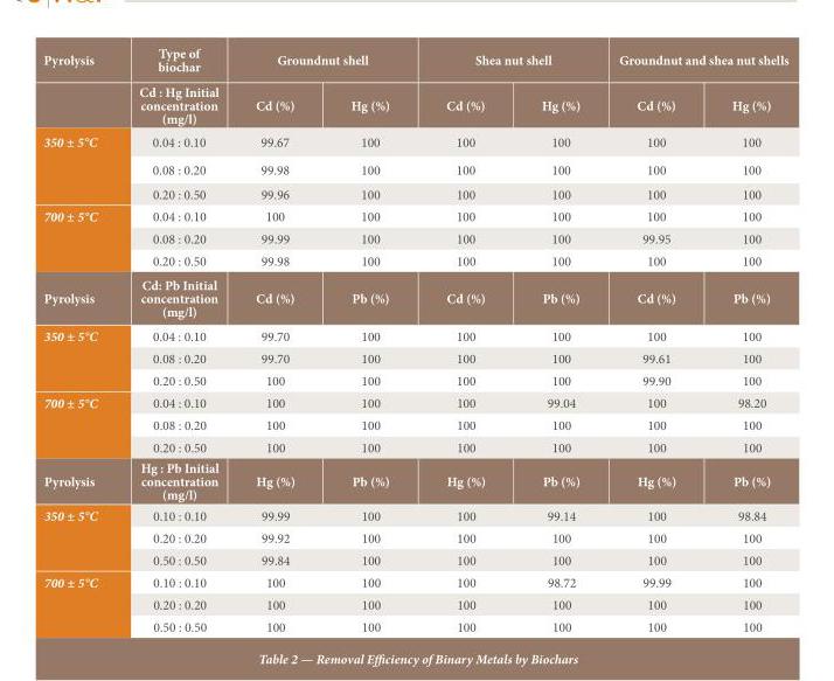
<table><tbody><tr><td rowspan="2">Pyrolysis</td><td>Type of biochar</td><td colspan="2">Groundnut shell</td><td colspan="2">Shea nut shell</td><td colspan="2">Groundnut and shea nut shells</td></tr><tr><td>Cd : Hg Initial concentration (mg/l)</td><td>Cd (%)</td><td>Hg (%)</td><td>Cd (%)</td><td>Hg (%)</td><td>Cd (%)</td><td>Hg (%)</td></tr><tr><td rowspan="3">350 ± 5°C</td><td>0.04 : 0.10</td><td>99.67</td><td>100</td><td>100</td><td>100</td><td>100</td><td>100</td></tr><tr><td>0.08 : 0.20</td><td>99.98</td><td>100</td><td>100</td><td>100</td><td>100</td><td>100</td></tr><tr><td>0.20 : 0.50</td><td>99.96</td><td>100</td><td>100</td><td>100</td><td>100</td><td>100</td></tr><tr><td rowspan="3">700 ± 5°C</td><td>0.04 : 0.10</td><td>100</td><td>100</td><td>100</td><td>100</td><td>100</td><td>100</td></tr><tr><td>0.08 : 0.20</td><td>99.99</td><td>100</td><td>100</td><td>100</td><td>99.95</td><td>100</td></tr><tr><td>0.20 : 0.50</td><td>99.98</td><td>100</td><td>100</td><td>100</td><td>100</td><td>100</td></tr><tr><td>Pyrolysis</td><td>Cd: Pb Initial concentration (mg/l)</td><td>Cd (%)</td><td>Pb (%)</td><td>Cd (%)</td><td>Pb (%)</td><td>Cd (%)</td><td>Pb (%)</td></tr><tr><td rowspan="3">350 ± 5°C</td><td>0.04 : 0.10</td><td>99.70</td><td>100</td><td>100</td><td>100</td><td>100</td><td>100</td></tr><tr><td>0.08 : 0.20</td><td>99.70</td><td>100</td><td>100</td><td>100</td><td>99.61</td><td>100</td></tr><tr><td>0.20 : 0.50</td><td>100</td><td>100</td><td>100</td><td>100</td><td>99.90</td><td>100</td></tr><tr><td rowspan="3">700 ± 5°C</td><td>0.04 : 0.10</td><td>100</td><td>100</td><td>100</td><td>99.04</td><td>100</td><td>98.20</td></tr><tr><td>0.08 : 0.20</td><td>100</td><td>100</td><td>100</td><td>100</td><td>100</td><td>100</td></tr><tr><td>0.20 : 0.50</td><td>100</td><td>100</td><td>100</td><td>100</td><td>100</td><td>100</td></tr><tr><td>Pyrolysis</td><td>Hg : Pb Initial concentration (mg/l)</td><td>Hg (%)</td><td>Pb (%)</td><td>Hg (%)</td><td>Pb (%)</td><td>Hg (%)</td><td>Pb (%)</td></tr><tr><td rowspan="3">350 ± 5°C</td><td>0.10 : 0.10</td><td>99.99</td><td>100</td><td>100</td><td>99.14</td><td>100</td><td>98.84</td></tr><tr><td>0.20 : 0.20</td><td>99.92</td><td>100</td><td>100</td><td>100</td><td>100</td><td>100</td></tr><tr><td>0.50 : 0.50</td><td>99.84</td><td>100</td><td>100</td><td>100</td><td>100</td><td>100</td></tr><tr><td rowspan="3">700 ± 5°C</td><td>0.10 : 0.10</td><td>100</td><td>100</td><td>100</td><td>98.72</td><td>99.99</td><td>100</td></tr><tr><td>0.20 : 0.20</td><td>100</td><td>100</td><td>100</td><td>100</td><td>100</td><td>100</td></tr><tr><td>0.50 : 0.50</td><td>100</td><td>100</td><td>100</td><td>100</td><td>100</td><td>100</td></tr></tbody></table>